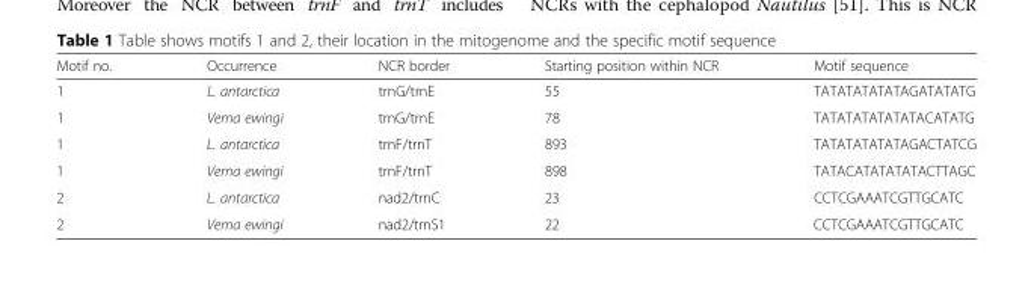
<table><thead><tr><td>Motif no.</td><td>Occurrence</td><td>NCR border</td><td>Starting position within NCR</td><td>Motif sequence</td></tr></thead><tbody><tr><td>1</td><td>L. antarctica</td><td>trnG/trnE</td><td>55</td><td>TATATATATATAGATATATG</td></tr><tr><td>1</td><td>Vema ewingi</td><td>trnG/trnE</td><td>78</td><td>TATATATATATATACATATG</td></tr><tr><td>1</td><td>L. antarctica</td><td>trnF/trnT</td><td>893</td><td>TATATATATATAGACTATCG</td></tr><tr><td>1</td><td>Vema ewingi</td><td>trnF/trnT</td><td>898</td><td>TATACATATATATACTTAGC</td></tr><tr><td>2</td><td>L. antarctica</td><td>nad2/trnC</td><td>23</td><td>CCTCGAAATCGTTGCATC</td></tr><tr><td>2</td><td>Vema ewingi</td><td>nad2/trnS1</td><td>22</td><td>CCTCGAAATCGTTGCATC</td></tr></tbody></table>